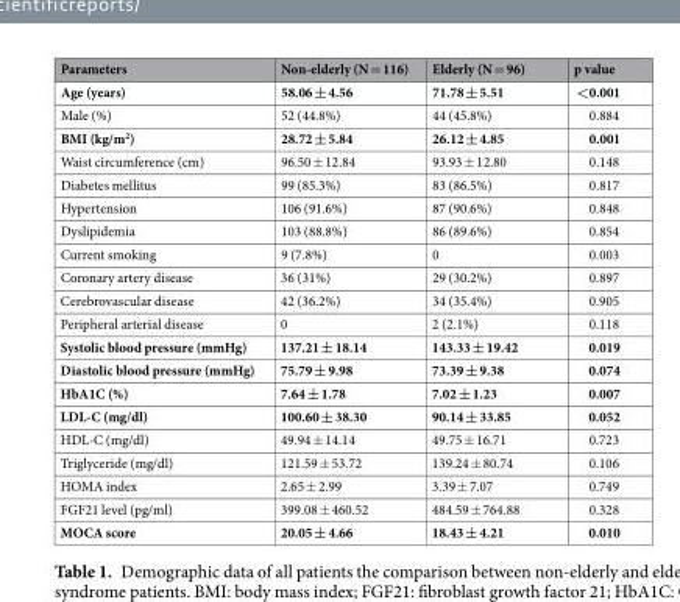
<table><thead><tr><td>Parameters</td><td>Non-elderly (N = 116)</td><td>Elderly (N = 96)</td><td>p value</td></tr></thead><tbody><tr><td>Age (years)</td><td>58.06 ± 4.56</td><td>71.78 ± 5.51</td><td>&lt;0.001</td></tr><tr><td>Male (%)</td><td>52 (44.8%)</td><td>44 (45.8%)</td><td>0.884</td></tr><tr><td>BMI (kg/m<sup>2</sup>)</td><td>28.72 ± 5.84</td><td>26.12 ± 4.85</td><td>0.001</td></tr><tr><td>Waist circumference (cm)</td><td>96.50 ± 12.84</td><td>93.93 ± 12.80</td><td>0.148</td></tr><tr><td>Diabetes mellitus</td><td>99 (85.3%)</td><td>83 (86.5%)</td><td>0.817</td></tr><tr><td>Hypertension</td><td>106 (91.6%)</td><td>87 (90.6%)</td><td>0.848</td></tr><tr><td>Dyslipidemia</td><td>103 (88.8%)</td><td>86 (89.6%)</td><td>0.854</td></tr><tr><td>Current smoking</td><td>9 (7.8%)</td><td>0</td><td>0.003</td></tr><tr><td>Coronary artery disease</td><td>36 (31%)</td><td>29 (30.2%)</td><td>0.897</td></tr><tr><td>Cerebrovascular disease</td><td>42 (36.2%)</td><td>34 (35.4%)</td><td>0.905</td></tr><tr><td>Peripheral arterial disease</td><td>0</td><td>2 (2.1%)</td><td>0.118</td></tr><tr><td>Systolic blood pressure (mmHg)</td><td>137.21 ± 18.14</td><td>143.33 ± 19.42</td><td>0.019</td></tr><tr><td>Diastolic blood pressure (mmHg)</td><td>75.79 ± 9.98</td><td>73.39 ± 9.38</td><td>0.074</td></tr><tr><td>HbA1C (%)</td><td>7.64 ± 1.78</td><td>7.02 ± 1.23</td><td>0.007</td></tr><tr><td>LDL-C (mg/dl)</td><td>100.60 ± 38.30</td><td>90.14 ± 33.85</td><td>0.052</td></tr><tr><td>HDL-C (mg/dl)</td><td>49.94 ± 14.14</td><td>49.75 ± 16.71</td><td>0.723</td></tr><tr><td>Triglyceride (mg/dl)</td><td>121.59 ± 53.72</td><td>139.24 ± 80.74</td><td>0.106</td></tr><tr><td>HOMA index</td><td>2.65 ± 2.99</td><td>3.39 ± 7.07</td><td>0.749</td></tr><tr><td>FGF21 level (pg/ml)</td><td>399.08 ± 460.52</td><td>484.59 ± 764.88</td><td>0.328</td></tr><tr><td>MOCA score</td><td>20.05 ± 4.66</td><td>18.43 ± 4.21</td><td>0.010</td></tr></tbody></table>